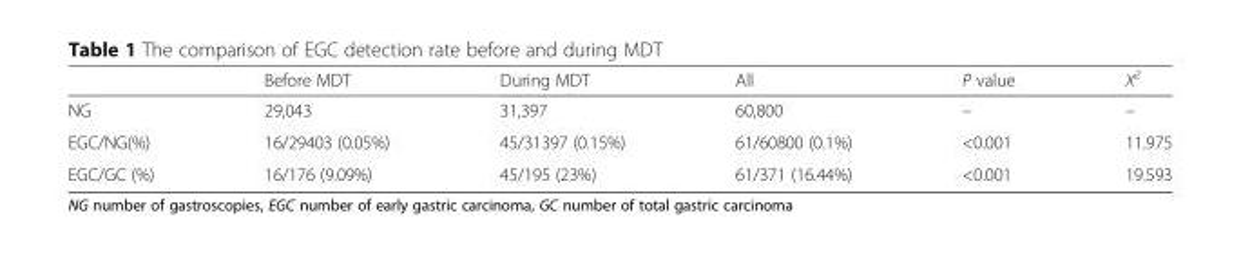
<table><thead><tr><td></td><td>Before MDT</td><td>During MDT</td><td>All</td><td>P value</td><td>X<sup>2</sup></td></tr></thead><tbody><tr><td>NG</td><td>29,043</td><td>31,397</td><td>60,800</td><td>–</td><td>–</td></tr><tr><td>EGC/NG(%)</td><td>16/29403 (0.05%)</td><td>45/31397 (0.15%)</td><td>61/60800 (0.1%)</td><td>&lt;0.001</td><td>11.975</td></tr><tr><td>EGC/GC (%)</td><td>16/176 (9.09%)</td><td>45/195 (23%)</td><td>61/371 (16.44%)</td><td>&lt;0.001</td><td>19.593</td></tr></tbody></table>